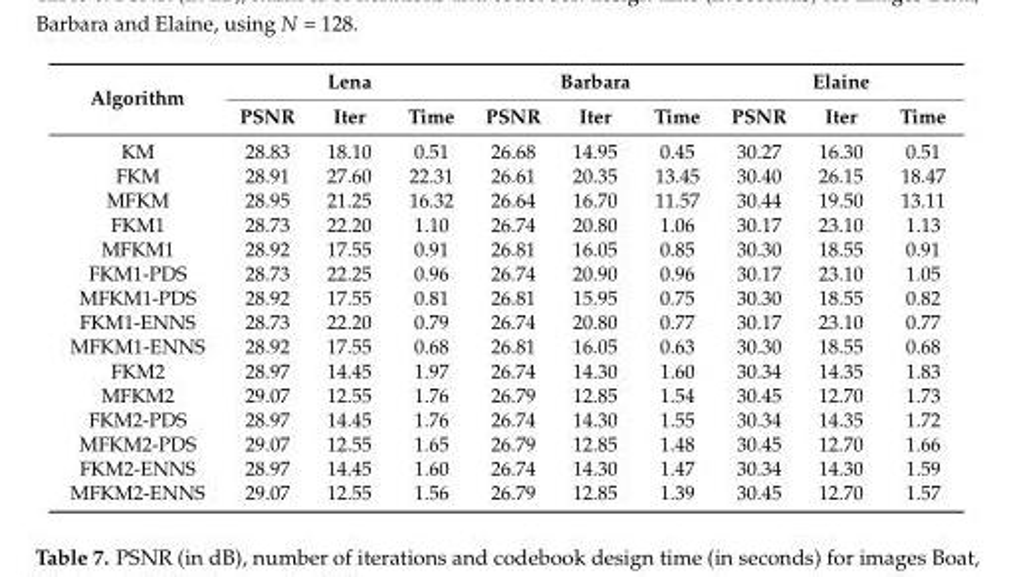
<table><thead><tr><td rowspan="2">Algorithm</td><td colspan="3">Lena</td><td colspan="3">Barbara</td><td colspan="3">Elaine</td></tr><tr><td>PSNR</td><td>Iter</td><td>Time</td><td>PSNR</td><td>Iter</td><td>Time</td><td>PSNR</td><td>Iter</td><td>Time</td></tr></thead><tbody><tr><td>KM</td><td>28.83</td><td>18.10</td><td>0.51</td><td>26.68</td><td>14.95</td><td>0.45</td><td>30.27</td><td>16.30</td><td>0.51</td></tr><tr><td>FKM</td><td>28.91</td><td>27.60</td><td>22.31</td><td>26.61</td><td>20.35</td><td>13.45</td><td>30.40</td><td>26.15</td><td>18.47</td></tr><tr><td>MFKM</td><td>28.95</td><td>21.25</td><td>16.32</td><td>26.64</td><td>16.70</td><td>11.57</td><td>30.44</td><td>19.50</td><td>13.11</td></tr><tr><td>FKM1</td><td>28.73</td><td>22.20</td><td>1.10</td><td>26.74</td><td>20.80</td><td>1.06</td><td>30.17</td><td>23.10</td><td>1.13</td></tr><tr><td>MFKM1</td><td>28.92</td><td>17.55</td><td>0.91</td><td>26.81</td><td>16.05</td><td>0.85</td><td>30.30</td><td>18.55</td><td>0.91</td></tr><tr><td>FKM1-PDS</td><td>28.73</td><td>22.25</td><td>0.96</td><td>26.74</td><td>20.90</td><td>0.96</td><td>30.17</td><td>23.10</td><td>1.05</td></tr><tr><td>MFKM1-PDS</td><td>28.92</td><td>17.55</td><td>0.81</td><td>26.81</td><td>15.95</td><td>0.75</td><td>30.30</td><td>18.55</td><td>0.82</td></tr><tr><td>FKM1-ENNS</td><td>28.73</td><td>22.20</td><td>0.79</td><td>26.74</td><td>20.80</td><td>0.77</td><td>30.17</td><td>23.10</td><td>0.77</td></tr><tr><td>MFKM1-ENNS</td><td>28.92</td><td>17.55</td><td>0.68</td><td>26.81</td><td>16.05</td><td>0.63</td><td>30.30</td><td>18.55</td><td>0.68</td></tr><tr><td>FKM2</td><td>28.97</td><td>14.45</td><td>1.97</td><td>26.74</td><td>14.30</td><td>1.60</td><td>30.34</td><td>14.35</td><td>1.83</td></tr><tr><td>MFKM2</td><td>29.07</td><td>12.55</td><td>1.76</td><td>26.79</td><td>12.85</td><td>1.54</td><td>30.45</td><td>12.70</td><td>1.73</td></tr><tr><td>FKM2-PDS</td><td>28.97</td><td>14.45</td><td>1.76</td><td>26.74</td><td>14.30</td><td>1.55</td><td>30.34</td><td>14.35</td><td>1.72</td></tr><tr><td>MFKM2-PDS</td><td>29.07</td><td>12.55</td><td>1.65</td><td>26.79</td><td>12.85</td><td>1.48</td><td>30.45</td><td>12.70</td><td>1.66</td></tr><tr><td>FKM2-ENNS</td><td>28.97</td><td>14.45</td><td>1.60</td><td>26.74</td><td>14.30</td><td>1.47</td><td>30.34</td><td>14.30</td><td>1.59</td></tr><tr><td>MFKM2-ENNS</td><td>29.07</td><td>12.55</td><td>1.56</td><td>26.79</td><td>12.85</td><td>1.39</td><td>30.45</td><td>12.70</td><td>1.57</td></tr></tbody></table>